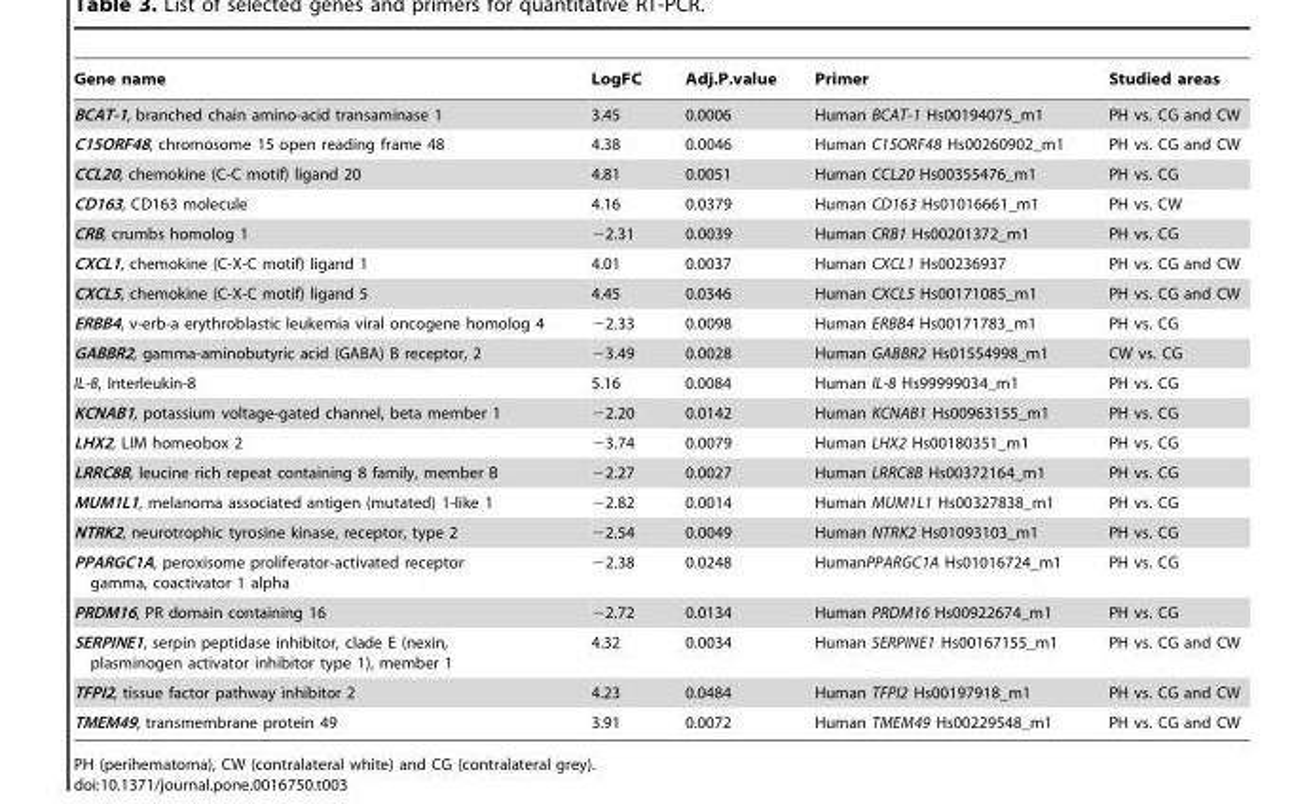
<table><thead><tr><td>Gene name</td><td>LogFC</td><td>Adj.P.value</td><td>Primer</td><td>Studied areas</td></tr></thead><tbody><tr><td>BCAT-1, branched chain amino-acid transaminase 1</td><td>3.45</td><td>0.0006</td><td>Human BCAT-1 Hs00194075_m1</td><td>PH vs. CG and CW</td></tr><tr><td>C15ORF48, chromosome 15 open reading frame 48</td><td>4.38</td><td>0.0046</td><td>Human C15ORF48 Hs00260902_m1</td><td>PH vs. CG and CW</td></tr><tr><td>CCL20, chemokine (C-C motif) ligand 20</td><td>4.81</td><td>0.0051</td><td>Human CCL20 Hs00355476_m1</td><td>PH vs. CG</td></tr><tr><td>CD163, CD163 molecule</td><td>4.16</td><td>0.0379</td><td>Human CD163 Hs01016661_m1</td><td>PH vs. CW</td></tr><tr><td>CRB, crumbs homolog 1</td><td>−2.31</td><td>0.0039</td><td>Human CRB1 Hs00201372_m1</td><td>PH vs. CG</td></tr><tr><td>CXCL1, chemokine (C-X-C motif) ligand 1</td><td>4.01</td><td>0.0037</td><td>Human CXCL1 Hs00236937</td><td>PH vs. CG and CW</td></tr><tr><td>CXCL5, chemokine (C-X-C motif) ligand 5</td><td>4.45</td><td>0.0346</td><td>Human CXCL5 Hs00171085_m1</td><td>PH vs. CG and CW</td></tr><tr><td>ERBB4, v-erb-a erythroblastic leukemia viral oncogene homolog 4</td><td>−2.33</td><td>0.0098</td><td>Human ERBB4 Hs00171783_m1</td><td>PH vs. CG</td></tr><tr><td>GABBR2, gamma-aminobutyric acid (GABA) B receptor, 2</td><td>−3.49</td><td>0.0028</td><td>Human GABBR2 Hs01554998_m1</td><td>CW vs. CG</td></tr><tr><td>IL-8, Interleukin-8</td><td>5.16</td><td>0.0084</td><td>Human IL-8 Hs99999034_m1</td><td>PH vs. CG</td></tr><tr><td>KCNAB1, potassium voltage-gated channel, beta member 1</td><td>−2.20</td><td>0.0142</td><td>Human KCNAB1 Hs00963155_m1</td><td>PH vs. CG</td></tr><tr><td>LHX2, LIM homeobox 2</td><td>−3.74</td><td>0.0079</td><td>Human LHX2 Hs00180351_m1</td><td>PH vs. CG</td></tr><tr><td>LRRC8B, leucine rich repeat containing 8 family, member B</td><td>−2.27</td><td>0.0027</td><td>Human LRRC8B Hs00372164_m1</td><td>PH vs. CG</td></tr><tr><td>MUM1L1, melanoma associated antigen (mutated) 1-like 1</td><td>−2.82</td><td>0.0014</td><td>Human MUM1L1 Hs00327838_m1</td><td>PH vs. CG</td></tr><tr><td>NTRK2, neurotrophic tyrosine kinase, receptor, type 2</td><td>−2.54</td><td>0.0049</td><td>Human NTRK2 Hs01093103_m1</td><td>PH vs. CG</td></tr><tr><td>PPARGC1A, peroxisome proliferator-activated receptor gamma, coactivator 1 alpha</td><td>−2.38</td><td>0.0248</td><td>HumanPPARGC1A Hs01016724_m1</td><td>PH vs. CG</td></tr><tr><td>PRDM16, PR domain containing 16</td><td>−2.72</td><td>0.0134</td><td>Human PRDM16 Hs00922674_m1</td><td>PH vs. CG</td></tr><tr><td>SERPINE1, serpin peptidase inhibitor, clade E (nexin, plasminogen activator inhibitor type 1), member 1</td><td>4.32</td><td>0.0034</td><td>Human SERPINE1 Hs00167155_m1</td><td>PH vs. CG and CW</td></tr><tr><td>TFPI2, tissue factor pathway inhibitor 2</td><td>4.23</td><td>0.0484</td><td>Human TFPI2 Hs00197918_m1</td><td>PH vs. CG and CW</td></tr><tr><td>TMEM49, transmembrane protein 49</td><td>3.91</td><td>0.0072</td><td>Human TMEM49 Hs00229548_m1</td><td>PH vs. CG and CW</td></tr></tbody></table>